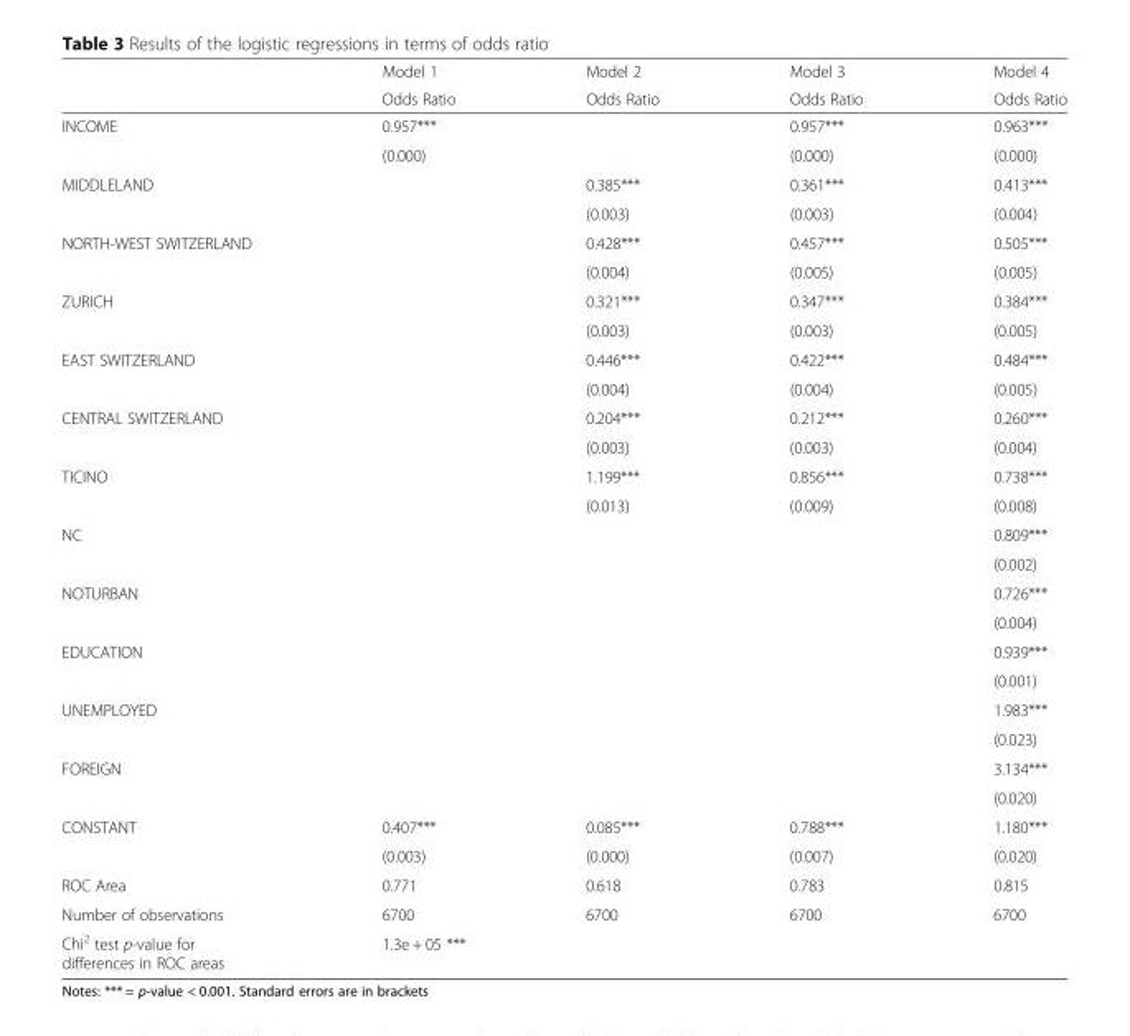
<table><thead><tr><td rowspan="2"></td><td rowspan="2">Model 1 Odds Ratio</td><td rowspan="2">Model 2 Odds Ratio</td><td rowspan="2">Model 3 Odds Ratio</td><td rowspan="2">Model 4 Odds Ratio</td></tr><tr></tr></thead><tbody><tr><td rowspan="2">INCOME</td><td>0.957***</td><td rowspan="2"></td><td>0.957***</td><td>0.963***</td></tr><tr><td>(0.000)</td><td>(0.000)</td><td>(0.000)</td></tr><tr><td rowspan="2">MIDDLELAND</td><td rowspan="22"></td><td>0.385***</td><td>0.361***</td><td>0.413***</td></tr><tr><td>(0.003)</td><td>(0.003)</td><td>(0.004)</td></tr><tr><td rowspan="2">NORTH-WEST SWITZERLAND</td><td>0.428***</td><td>0.457***</td><td>0.505***</td></tr><tr><td>(0.004)</td><td>(0.005)</td><td>(0.005)</td></tr><tr><td rowspan="2">ZURICH</td><td>0.321***</td><td>0.347***</td><td>0.384***</td></tr><tr><td>(0.003)</td><td>(0.003)</td><td>(0.005)</td></tr><tr><td rowspan="2">EAST SWITZERLAND</td><td>0.446***</td><td>0.422***</td><td>0.484***</td></tr><tr><td>(0.004)</td><td>(0.004)</td><td>(0.005)</td></tr><tr><td rowspan="2">CENTRAL SWITZERLAND</td><td>0.204***</td><td>0.212***</td><td>0.260***</td></tr><tr><td>(0.003)</td><td>(0.003)</td><td>(0.004)</td></tr><tr><td rowspan="2">TICINO</td><td>1.199***</td><td>0.856***</td><td>0.738***</td></tr><tr><td>(0.013)</td><td>(0.009)</td><td>(0.008)</td></tr><tr><td rowspan="2">NC</td><td rowspan="10"></td><td rowspan="10"></td><td>0.809***</td></tr><tr><td>(0.002)</td></tr><tr><td rowspan="2">NOTURBAN</td><td>0.726***</td></tr><tr><td>(0.004)</td></tr><tr><td rowspan="2">EDUCATION</td><td>0.939***</td></tr><tr><td>(0.001)</td></tr><tr><td rowspan="2">UNEMPLOYED</td><td>1.983***</td></tr><tr><td>(0.023)</td></tr><tr><td rowspan="2">FOREIGN</td><td>3.134***</td></tr><tr><td>(0.020)</td></tr><tr><td rowspan="2">CONSTANT</td><td>0.407***</td><td>0.085***</td><td>0.788***</td><td>1.180***</td></tr><tr><td>(0.003)</td><td>(0.000)</td><td>(0.007)</td><td>(0.020)</td></tr><tr><td>ROC Area</td><td>0.771</td><td>0.618</td><td>0.783</td><td>0.815</td></tr><tr><td>Number of observations</td><td>6700</td><td>6700</td><td>6700</td><td>6700</td></tr><tr><td>Chi<sup>2</sup> test p-value for differences in ROC areas</td><td colspan="4">1.3e + 05 ***</td></tr></tbody></table>